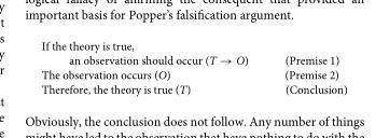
<table><tbody><tr><td colspan="2">If the theory is true,</td></tr><tr><td>an observation should occur (T → O)</td><td>(Premise 1)</td></tr><tr><td>The observation occurs (O)</td><td>(Premise 2)</td></tr><tr><td>Therefore, the theory is true (T)</td><td>(Conclusion)</td></tr></tbody></table>